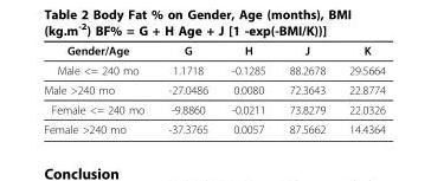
<table><thead><tr><td>Gender/Age</td><td>G</td><td>H</td><td>J</td><td>K</td></tr></thead><tbody><tr><td>Male &lt;= 240 mo</td><td>1.1718</td><td>-0.1285</td><td>88.2678</td><td>29.5664</td></tr><tr><td>Male &gt;240 mo</td><td>-27.0486</td><td>0.0080</td><td>72.3643</td><td>22.8774</td></tr><tr><td>Female &lt;= 240 mo</td><td>-9.8860</td><td>-0.0211</td><td>73.8279</td><td>22.0326</td></tr><tr><td>Female &gt;240 mo</td><td>-37.3765</td><td>0.0057</td><td>87.5662</td><td>14.4364</td></tr></tbody></table>